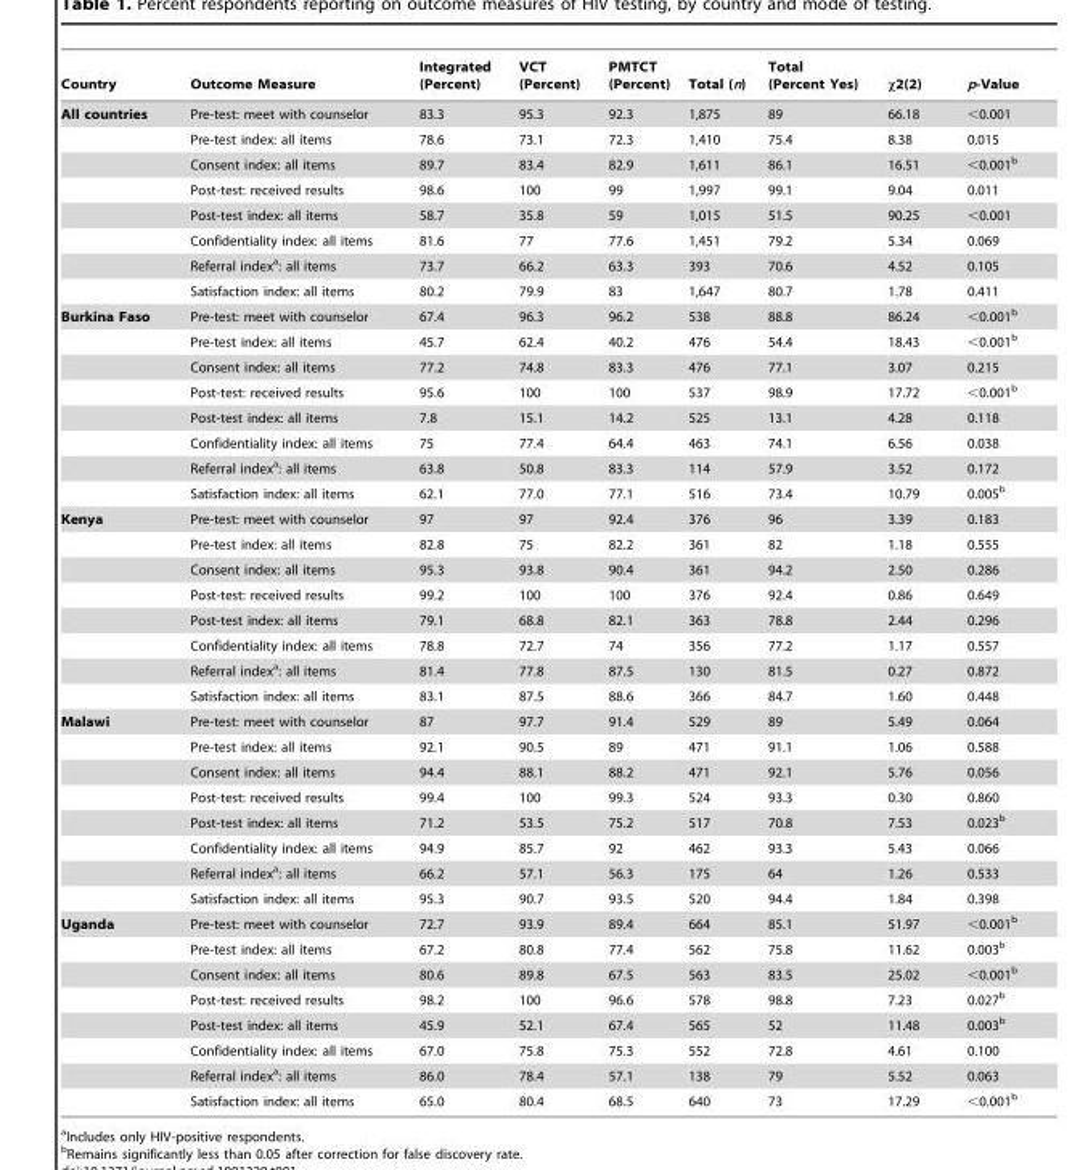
<table><thead><tr><td>Country</td><td>Outcome Measure</td><td>Integrated (Percent)</td><td>VCT (Percent)</td><td>PMTCT (Percent)</td><td>Total (n)</td><td>Total (Percent Yes)</td><td>χ2(2)</td><td>p-Value</td></tr></thead><tbody><tr><td rowspan="8">All countries</td><td>Pre-test: meet with counselor</td><td>83.3</td><td>95.3</td><td>92.3</td><td>1,875</td><td>89</td><td>66.18</td><td>&lt;0.001</td></tr><tr><td>Pre-test index: all items</td><td>78.6</td><td>73.1</td><td>72.3</td><td>1,410</td><td>75.4</td><td>8.38</td><td>0.015</td></tr><tr><td>Consent index: all items</td><td>89.7</td><td>83.4</td><td>82.9</td><td>1,611</td><td>86.1</td><td>16.51</td><td>&lt;0.001<sup>b</sup></td></tr><tr><td>Post-test: received results</td><td>98.6</td><td>100</td><td>99</td><td>1,997</td><td>99.1</td><td>9.04</td><td>0.011</td></tr><tr><td>Post-test index: all items</td><td>58.7</td><td>35.8</td><td>59</td><td>1,015</td><td>51.5</td><td>90.25</td><td>&lt;0.001</td></tr><tr><td>Confidentiality index: all items</td><td>81.6</td><td>77</td><td>77.6</td><td>1,451</td><td>79.2</td><td>5.34</td><td>0.069</td></tr><tr><td>Referral index<sup>a</sup>: all items</td><td>73.7</td><td>66.2</td><td>63.3</td><td>393</td><td>70.6</td><td>4.52</td><td>0.105</td></tr><tr><td>Satisfaction index: all items</td><td>80.2</td><td>79.9</td><td>83</td><td>1,647</td><td>80.7</td><td>1.78</td><td>0.411</td></tr><tr><td rowspan="8">Burkina Faso</td><td>Pre-test: meet with counselor</td><td>67.4</td><td>96.3</td><td>96.2</td><td>538</td><td>88.8</td><td>86.24</td><td>&lt;0.001<sup>b</sup></td></tr><tr><td>Pre-test index: all items</td><td>45.7</td><td>62.4</td><td>40.2</td><td>476</td><td>54.4</td><td>18.43</td><td>&lt;0.001<sup>b</sup></td></tr><tr><td>Consent index: all items</td><td>77.2</td><td>74.8</td><td>83.3</td><td>476</td><td>77.1</td><td>3.07</td><td>0.215</td></tr><tr><td>Post-test: received results</td><td>95.6</td><td>100</td><td>100</td><td>537</td><td>98.9</td><td>17.72</td><td>&lt;0.001<sup>b</sup></td></tr><tr><td>Post-test index: all items</td><td>7.8</td><td>15.1</td><td>14.2</td><td>525</td><td>13.1</td><td>4.28</td><td>0.118</td></tr><tr><td>Confidentiality index: all items</td><td>75</td><td>77.4</td><td>64.4</td><td>463</td><td>74.1</td><td>6.56</td><td>0.038</td></tr><tr><td>Referral index<sup>a</sup>: all items</td><td>63.8</td><td>50.8</td><td>83.3</td><td>114</td><td>57.9</td><td>3.52</td><td>0.172</td></tr><tr><td>Satisfaction index: all items</td><td>62.1</td><td>77.0</td><td>77.1</td><td>516</td><td>73.4</td><td>10.79</td><td>0.005<sup>b</sup></td></tr><tr><td rowspan="8">Kenya</td><td>Pre-test: meet with counselor</td><td>97</td><td>97</td><td>92.4</td><td>376</td><td>96</td><td>3.39</td><td>0.183</td></tr><tr><td>Pre-test index: all items</td><td>82.8</td><td>75</td><td>82.2</td><td>361</td><td>82</td><td>1.18</td><td>0.555</td></tr><tr><td>Consent index: all items</td><td>95.3</td><td>93.8</td><td>90.4</td><td>361</td><td>94.2</td><td>2.50</td><td>0.286</td></tr><tr><td>Post-test: received results</td><td>99.2</td><td>100</td><td>100</td><td>376</td><td>92.4</td><td>0.86</td><td>0.649</td></tr><tr><td>Post-test index: all items</td><td>79.1</td><td>68.8</td><td>82.1</td><td>363</td><td>78.8</td><td>2.44</td><td>0.296</td></tr><tr><td>Confidentiality index: all items</td><td>78.8</td><td>72.7</td><td>74</td><td>356</td><td>77.2</td><td>1.17</td><td>0.557</td></tr><tr><td>Referral index<sup>a</sup>: all items</td><td>81.4</td><td>77.8</td><td>87.5</td><td>130</td><td>81.5</td><td>0.27</td><td>0.872</td></tr><tr><td>Satisfaction index: all items</td><td>83.1</td><td>87.5</td><td>88.6</td><td>366</td><td>84.7</td><td>1.60</td><td>0.448</td></tr><tr><td rowspan="8">Malawi</td><td>Pre-test: meet with counselor</td><td>87</td><td>97.7</td><td>91.4</td><td>529</td><td>89</td><td>5.49</td><td>0.064</td></tr><tr><td>Pre-test index: all items</td><td>92.1</td><td>90.5</td><td>89</td><td>471</td><td>91.1</td><td>1.06</td><td>0.588</td></tr><tr><td>Consent index: all items</td><td>94.4</td><td>88.1</td><td>88.2</td><td>471</td><td>92.1</td><td>5.76</td><td>0.056</td></tr><tr><td>Post-test: received results</td><td>99.4</td><td>100</td><td>99.3</td><td>524</td><td>93.3</td><td>0.30</td><td>0.860</td></tr><tr><td>Post-test index: all items</td><td>71.2</td><td>53.5</td><td>75.2</td><td>517</td><td>70.8</td><td>7.53</td><td>0.023<sup>b</sup></td></tr><tr><td>Confidentiality index: all items</td><td>94.9</td><td>85.7</td><td>92</td><td>462</td><td>93.3</td><td>5.43</td><td>0.066</td></tr><tr><td>Referral index<sup>a</sup>: all items</td><td>66.2</td><td>57.1</td><td>56.3</td><td>175</td><td>64</td><td>1.26</td><td>0.533</td></tr><tr><td>Satisfaction index: all items</td><td>95.3</td><td>90.7</td><td>93.5</td><td>520</td><td>94.4</td><td>1.84</td><td>0.398</td></tr><tr><td rowspan="8">Uganda</td><td>Pre-test: meet with counselor</td><td>72.7</td><td>93.9</td><td>89.4</td><td>664</td><td>85.1</td><td>51.97</td><td>&lt;0.001<sup>b</sup></td></tr><tr><td>Pre-test index: all items</td><td>67.2</td><td>80.8</td><td>77.4</td><td>562</td><td>75.8</td><td>11.62</td><td>0.003<sup>b</sup></td></tr><tr><td>Consent index: all items</td><td>80.6</td><td>89.8</td><td>67.5</td><td>563</td><td>83.5</td><td>25.02</td><td>&lt;0.001<sup>b</sup></td></tr><tr><td>Post-test: received results</td><td>98.2</td><td>100</td><td>96.6</td><td>578</td><td>98.8</td><td>7.23</td><td>0.027<sup>b</sup></td></tr><tr><td>Post-test index: all items</td><td>45.9</td><td>52.1</td><td>67.4</td><td>565</td><td>52</td><td>11.48</td><td>0.003<sup>b</sup></td></tr><tr><td>Confidentiality index: all items</td><td>67.0</td><td>75.8</td><td>75.3</td><td>552</td><td>72.8</td><td>4.61</td><td>0.100</td></tr><tr><td>Referral index<sup>a</sup>: all items</td><td>86.0</td><td>78.4</td><td>57.1</td><td>138</td><td>79</td><td>5.52</td><td>0.063</td></tr><tr><td>Satisfaction index: all items</td><td>65.0</td><td>80.4</td><td>68.5</td><td>640</td><td>73</td><td>17.29</td><td>&lt;0.001<sup>b</sup></td></tr></tbody></table>